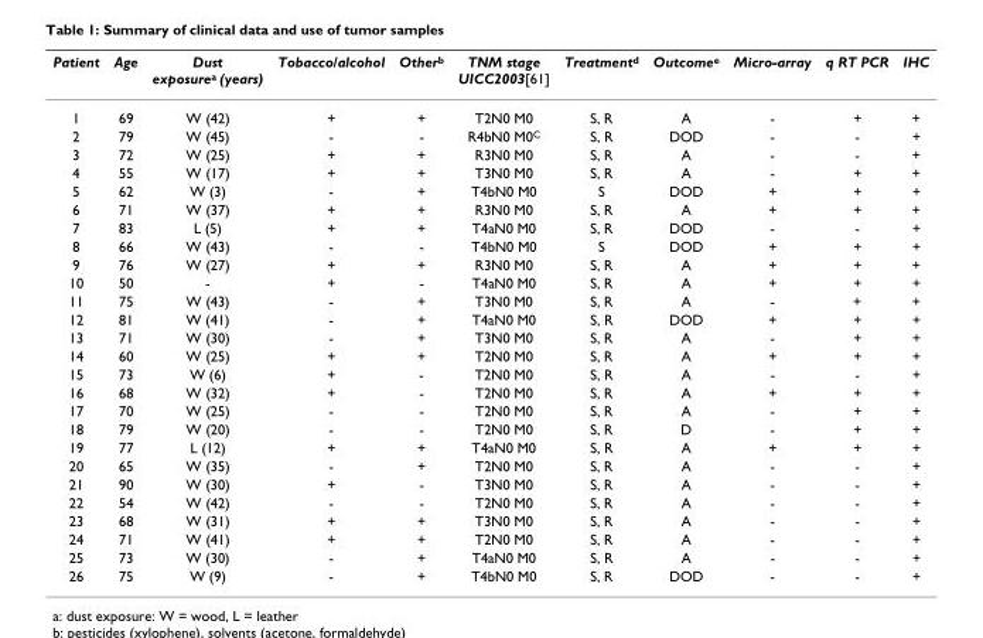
<table><thead><tr><td>Patient</td><td>Age</td><td>Dust exposure<sup>a</sup> (years)</td><td>Tobacco/alcohol</td><td>Other<sup>b</sup></td><td>TNM stage UICC2003[61]</td><td>Treatment<sup>d</sup></td><td>Outcome<sup>e</sup></td><td>Micro-array</td><td>q RT PCR</td><td>IHC</td></tr></thead><tbody><tr><td>1</td><td>69</td><td>W (42)</td><td>+</td><td>+</td><td>T2N0 M0</td><td>S, R</td><td>A</td><td>-</td><td>+</td><td>+</td></tr><tr><td>2</td><td>79</td><td>W (45)</td><td>-</td><td>-</td><td>R4bN0 M0<sup>C</sup></td><td>S, R</td><td>DOD</td><td>-</td><td>-</td><td>+</td></tr><tr><td>3</td><td>72</td><td>W (25)</td><td>+</td><td>+</td><td>R3N0 M0</td><td>S, R</td><td>A</td><td>-</td><td>-</td><td>+</td></tr><tr><td>4</td><td>55</td><td>W (17)</td><td>+</td><td>+</td><td>T3N0 M0</td><td>S, R</td><td>A</td><td>-</td><td>+</td><td>+</td></tr><tr><td>5</td><td>62</td><td>W (3)</td><td>-</td><td>+</td><td>T4bN0 M0</td><td>S</td><td>DOD</td><td>+</td><td>+</td><td>+</td></tr><tr><td>6</td><td>71</td><td>W (37)</td><td>+</td><td>+</td><td>R3N0 M0</td><td>S, R</td><td>A</td><td>+</td><td>+</td><td>+</td></tr><tr><td>7</td><td>83</td><td>L (5)</td><td>+</td><td>+</td><td>T4aN0 M0</td><td>S, R</td><td>DOD</td><td>-</td><td>-</td><td>+</td></tr><tr><td>8</td><td>66</td><td>W (43)</td><td>-</td><td>-</td><td>T4bN0 M0</td><td>S</td><td>DOD</td><td>+</td><td>+</td><td>+</td></tr><tr><td>9</td><td>76</td><td>W (27)</td><td>+</td><td>+</td><td>R3N0 M0</td><td>S, R</td><td>A</td><td>+</td><td>+</td><td>+</td></tr><tr><td>10</td><td>50</td><td>-</td><td>+</td><td>-</td><td>T4aN0 M0</td><td>S, R</td><td>A</td><td>+</td><td>+</td><td>+</td></tr><tr><td>11</td><td>75</td><td>W (43)</td><td>-</td><td>+</td><td>T3N0 M0</td><td>S, R</td><td>A</td><td>-</td><td>+</td><td>+</td></tr><tr><td>12</td><td>81</td><td>W (41)</td><td>-</td><td>+</td><td>T4aN0 M0</td><td>S, R</td><td>DOD</td><td>+</td><td>+</td><td>+</td></tr><tr><td>13</td><td>71</td><td>W (30)</td><td>-</td><td>+</td><td>T3N0 M0</td><td>S, R</td><td>A</td><td>-</td><td>+</td><td>+</td></tr><tr><td>14</td><td>60</td><td>W (25)</td><td>+</td><td>+</td><td>T2N0 M0</td><td>S, R</td><td>A</td><td>+</td><td>+</td><td>+</td></tr><tr><td>15</td><td>73</td><td>W (6)</td><td>+</td><td>-</td><td>T2N0 M0</td><td>S, R</td><td>A</td><td>-</td><td>-</td><td>+</td></tr><tr><td>16</td><td>68</td><td>W (32)</td><td>+</td><td>-</td><td>T2N0 M0</td><td>S, R</td><td>A</td><td>+</td><td>+</td><td>+</td></tr><tr><td>17</td><td>70</td><td>W (25)</td><td>-</td><td>-</td><td>T2N0 M0</td><td>S, R</td><td>A</td><td>-</td><td>+</td><td>+</td></tr><tr><td>18</td><td>79</td><td>W (20)</td><td>-</td><td>-</td><td>T2N0 M0</td><td>S, R</td><td>D</td><td>-</td><td>+</td><td>+</td></tr><tr><td>19</td><td>77</td><td>L (12)</td><td>+</td><td>+</td><td>T4aN0 M0</td><td>S, R</td><td>A</td><td>+</td><td>+</td><td>+</td></tr><tr><td>20</td><td>65</td><td>W (35)</td><td>-</td><td>+</td><td>T2N0 M0</td><td>S, R</td><td>A</td><td>-</td><td>-</td><td>+</td></tr><tr><td>21</td><td>90</td><td>W (30)</td><td>+</td><td>-</td><td>T3N0 M0</td><td>S, R</td><td>A</td><td>-</td><td>-</td><td>+</td></tr><tr><td>22</td><td>54</td><td>W (42)</td><td>-</td><td>-</td><td>T2N0 M0</td><td>S, R</td><td>A</td><td>-</td><td>-</td><td>+</td></tr><tr><td>23</td><td>68</td><td>W (31)</td><td>+</td><td>+</td><td>T3N0 M0</td><td>S, R</td><td>A</td><td>-</td><td>-</td><td>+</td></tr><tr><td>24</td><td>71</td><td>W (41)</td><td>+</td><td>+</td><td>T2N0 M0</td><td>S, R</td><td>A</td><td>-</td><td>-</td><td>+</td></tr><tr><td>25</td><td>73</td><td>W (30)</td><td>-</td><td>+</td><td>T4aN0 M0</td><td>S, R</td><td>A</td><td>-</td><td>-</td><td>+</td></tr><tr><td>26</td><td>75</td><td>W (9)</td><td>-</td><td>+</td><td>T4bN0 M0</td><td>S, R</td><td>DOD</td><td>-</td><td>-</td><td>+</td></tr></tbody></table>